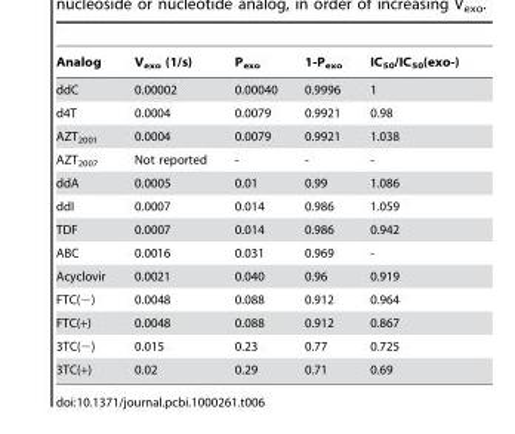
<table><thead><tr><td>Analog</td><td>V<sub>exo</sub> (1/s)</td><td>P<sub>exo</sub></td><td>1-P<sub>exo</sub></td><td>IC<sub>50</sub>/IC<sub>50</sub>(exo-)</td></tr></thead><tbody><tr><td>ddC</td><td>0.00002</td><td>0.00040</td><td>0.9996</td><td>1</td></tr><tr><td>d4T</td><td>0.0004</td><td>0.0079</td><td>0.9921</td><td>0.98</td></tr><tr><td>AZT<sub>2001</sub></td><td>0.0004</td><td>0.0079</td><td>0.9921</td><td>1.038</td></tr><tr><td>AZT<sub>2007</sub></td><td>Not reported</td><td>-</td><td>-</td><td>-</td></tr><tr><td>ddA</td><td>0.0005</td><td>0.01</td><td>0.99</td><td>1.086</td></tr><tr><td>ddI</td><td>0.0007</td><td>0.014</td><td>0.986</td><td>1.059</td></tr><tr><td>TDF</td><td>0.0007</td><td>0.014</td><td>0.986</td><td>0.942</td></tr><tr><td>ABC</td><td>0.0016</td><td>0.031</td><td>0.969</td><td>-</td></tr><tr><td>Acyclovir</td><td>0.0021</td><td>0.040</td><td>0.96</td><td>0.919</td></tr><tr><td>FTC(−)</td><td>0.0048</td><td>0.088</td><td>0.912</td><td>0.964</td></tr><tr><td>FTC(+)</td><td>0.0048</td><td>0.088</td><td>0.912</td><td>0.867</td></tr><tr><td>3TC(−)</td><td>0.015</td><td>0.23</td><td>0.77</td><td>0.725</td></tr><tr><td>3TC(+)</td><td>0.02</td><td>0.29</td><td>0.71</td><td>0.69</td></tr></tbody></table>